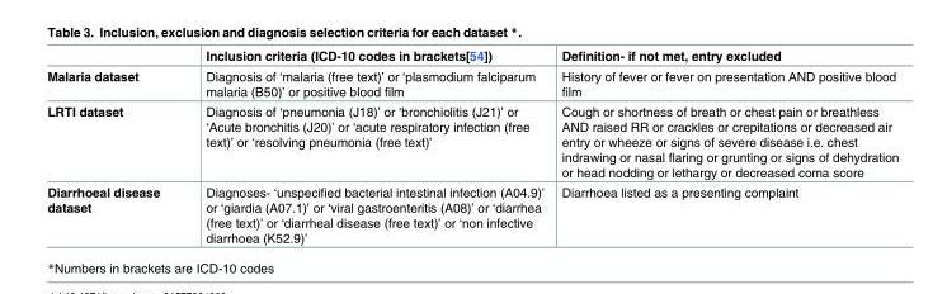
<table><thead><tr><td></td><td>Inclusion criteria (ICD-10 codes in brackets[54])</td><td>Definition- if not met, entry excluded</td></tr></thead><tbody><tr><td>Malaria dataset</td><td>Diagnosis of ‘malaria (free text)’ or ‘plasmodium falciparum malaria (B50)’ or positive blood film</td><td>History of fever or fever on presentation AND positive blood film</td></tr><tr><td>LRTI dataset</td><td>Diagnosis of ‘pneumonia (J18)’ or ‘bronchiolitis (J21)’ or ‘Acute bronchitis (J20)’ or ‘acute respiratory infection (free text)’ or ‘resolving pneumonia (free text)’</td><td>Cough or shortness of breath or chest pain or breathless AND raised RR or crackles or crepitations or decreased air entry or wheeze or signs of severe disease i.e. chest indrawing or nasal flaring or grunting or signs of dehydration or head nodding or lethargy or decreased coma score</td></tr><tr><td>Diarrhoeal disease dataset</td><td>Diagnoses- ‘unspecified bacterial intestinal infection (A04.9)’ or ‘giardia (A07.1)’ or ‘viral gastroenteritis (A08)’ or ‘diarrhea (free text)’ or ‘diarrheal disease (free text)’ or ‘non infective diarrhoea (K52.9)’</td><td>Diarrhoea listed as a presenting complaint</td></tr></tbody></table>